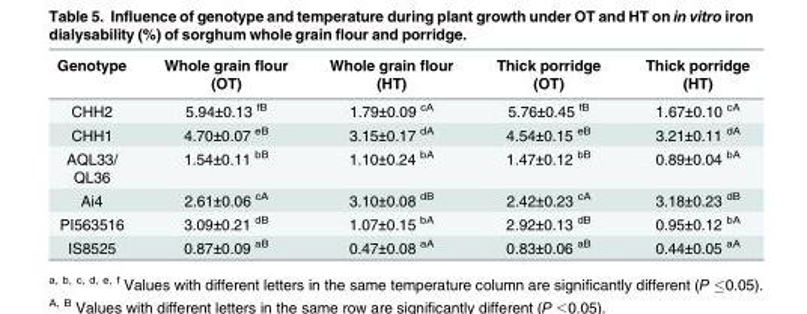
<table><thead><tr><td>Genotype</td><td>Whole grain flour (OT)</td><td>Whole grain flour (HT)</td><td>Thick porridge (OT)</td><td>Thick porridge (HT)</td></tr></thead><tbody><tr><td>CHH2</td><td>5.94±0.13 <sup>fB</sup></td><td>1.79±0.09 <sup>cA</sup></td><td>5.76±0.45 <sup>fB</sup></td><td>1.67±0.10 <sup>cA</sup></td></tr><tr><td>CHH1</td><td>4.70±0.07 <sup>eB</sup></td><td>3.15±0.17 <sup>dA</sup></td><td>4.54±0.15 <sup>eB</sup></td><td>3.21±0.11 <sup>dA</sup></td></tr><tr><td>AQL33/ QL36</td><td>1.54±0.11 <sup>bB</sup></td><td>1.10±0.24 <sup>bA</sup></td><td>1.47±0.12 <sup>bB</sup></td><td>0.89±0.04 <sup>bA</sup></td></tr><tr><td>Ai4</td><td>2.61±0.06 <sup>cA</sup></td><td>3.10±0.08 <sup>dB</sup></td><td>2.42±0.23 <sup>cA</sup></td><td>3.18±0.23 <sup>dB</sup></td></tr><tr><td>PI563516</td><td>3.09±0.21 <sup>dB</sup></td><td>1.07±0.15 <sup>bA</sup></td><td>2.92±0.13 <sup>dB</sup></td><td>0.95±0.12 <sup>bA</sup></td></tr><tr><td>IS8525</td><td>0.87±0.09 <sup>aB</sup></td><td>0.47±0.08 <sup>aA</sup></td><td>0.83±0.06 <sup>aB</sup></td><td>0.44±0.05 <sup>aA</sup></td></tr></tbody></table>